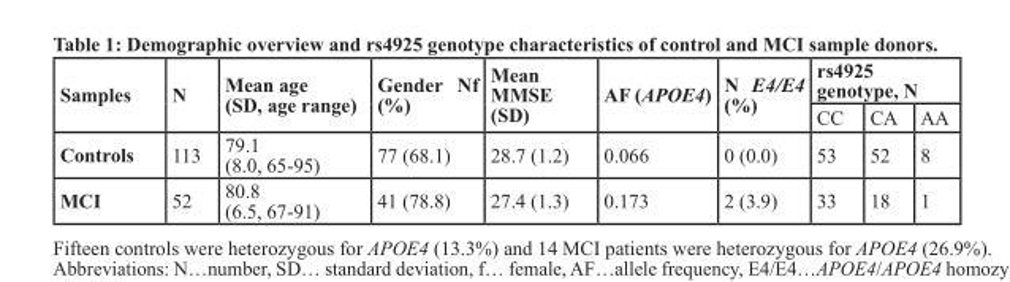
<table><thead><tr><td rowspan="2">Samples</td><td rowspan="2">n</td><td rowspan="2">Mean age (sd, age range)</td><td rowspan="2">Gender Nf (%)</td><td rowspan="2">Mean MMSE (sd)</td><td rowspan="2">AF (APOE4)</td><td rowspan="2">n E4/E4 (%)</td><td colspan="3">rs4925 genotype, N</td></tr><tr><td>CC</td><td>CA</td><td>AA</td></tr></thead><tbody><tr><td>Controls</td><td>113</td><td>79.1 (8.0, 65-95)</td><td>77 (68.1)</td><td>28.7 (1.2)</td><td>0.066</td><td>0 (0.0)</td><td>53</td><td>52</td><td>8</td></tr><tr><td>MCI</td><td>52</td><td>80.8 (6.5, 67-91)</td><td>41 (78.8)</td><td>27.4 (1.3)</td><td>0.173</td><td>2 (3.9)</td><td>33</td><td>18</td><td>1</td></tr></tbody></table>